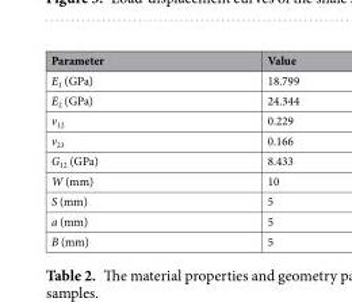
<table><thead><tr><td>Parameter</td><td>Value</td></tr></thead><tbody><tr><td>E<sub>1</sub> (GPa)</td><td>18.799</td></tr><tr><td>E<sub>2</sub> (GPa)</td><td>24.344</td></tr><tr><td>v<sub>12</sub></td><td>0.229</td></tr><tr><td>v<sub>23</sub></td><td>0.166</td></tr><tr><td>G<sub>12</sub> (GPa)</td><td>8.433</td></tr><tr><td>W (mm)</td><td>10</td></tr><tr><td>S (mm)</td><td>5</td></tr><tr><td>a (mm)</td><td>5</td></tr><tr><td>B (mm)</td><td>5</td></tr></tbody></table>